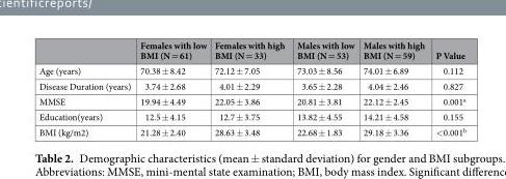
<table><thead><tr><td></td><td>Females with low BMI (N = 61)</td><td>Females with high BMI (N = 33)</td><td>Males with low BMI (N = 53)</td><td>Males with high BMI (N = 59)</td><td>P Value</td></tr></thead><tbody><tr><td>Age (years)</td><td>70.38 ± 8.42</td><td>72.12 ± 7.05</td><td>73.03 ± 8.56</td><td>74.01 ± 6.89</td><td>0.112</td></tr><tr><td>Disease Duration (years)</td><td>3.74 ± 2.68</td><td>4.01 ± 2.29</td><td>3.65 ± 2.28</td><td>4.04 ± 2.46</td><td>0.827</td></tr><tr><td>MMSE</td><td>19.94 ± 4.49</td><td>22.05 ± 3.86</td><td>20.81 ± 3.81</td><td>22.12 ± 2.45</td><td>0.001<sup>a</sup></td></tr><tr><td>Education(years)</td><td>12.5 ± 4.15</td><td>12.7 ± 3.75</td><td>13.82 ± 4.55</td><td>14.21 ± 4.58</td><td>0.155</td></tr><tr><td>BMI (kg/m2)</td><td>21.28 ± 2.40</td><td>28.63 ± 3.48</td><td>22.68 ± 1.83</td><td>29.18 ± 3.36</td><td>&lt;0.001<sup>b</sup></td></tr></tbody></table>